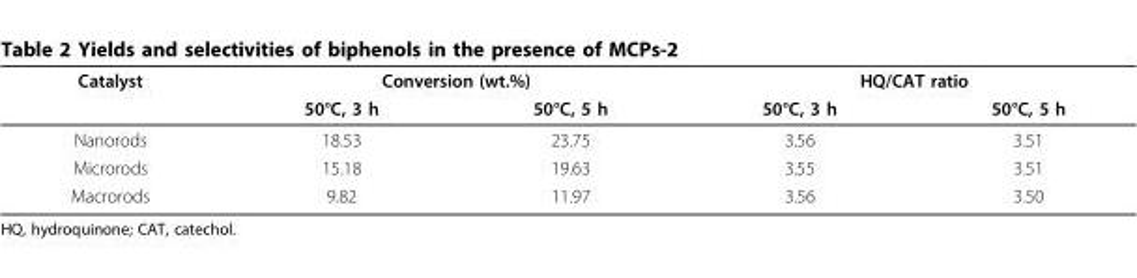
<table><thead><tr><td rowspan="2">Catalyst</td><td colspan="2">Conversion (wt.%)</td><td colspan="2">HQ/CAT ratio</td></tr><tr><td>50°C, 3 h</td><td>50°C, 5 h</td><td>50°C, 3 h</td><td>50°C, 5 h</td></tr></thead><tbody><tr><td>Nanorods</td><td>18.53</td><td>23.75</td><td>3.56</td><td>3.51</td></tr><tr><td>Microrods</td><td>15.18</td><td>19.63</td><td>3.55</td><td>3.51</td></tr><tr><td>Macrorods</td><td>9.82</td><td>11.97</td><td>3.56</td><td>3.50</td></tr></tbody></table>